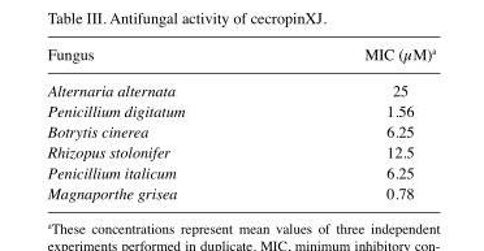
<table><thead><tr><td>Fungus</td><td>MIC (µM)<sup>a</sup></td></tr></thead><tbody><tr><td>Alternaria alternata</td><td>25</td></tr><tr><td>Penicillium digitatum</td><td>1.56</td></tr><tr><td>Botrytis cinerea</td><td>6.25</td></tr><tr><td>Rhizopus stolonifer</td><td>12.5</td></tr><tr><td>Penicillium italicum</td><td>6.25</td></tr><tr><td>Magnaporthe grisea</td><td>0.78</td></tr></tbody></table>